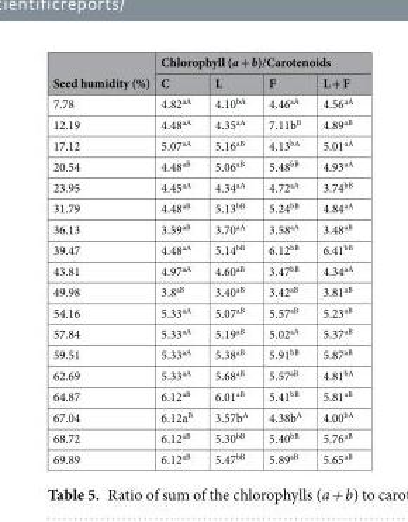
<table><thead><tr><td rowspan="2">Seed humidity (%)</td><td colspan="4">Chlorophyll (a + b)/Carotenoids</td></tr><tr><td>C</td><td>L</td><td>F</td><td>L + F</td></tr></thead><tbody><tr><td>7.78</td><td>4.82<sup>aA</sup></td><td>4.10<sup>bA</sup></td><td>4.46<sup>aA</sup></td><td>4.56<sup>aA</sup></td></tr><tr><td>12.19</td><td>4.48<sup>aA</sup></td><td>4.35<sup>aA</sup></td><td>7.11b<sup>B</sup></td><td>4.89<sup>aB</sup></td></tr><tr><td>17.12</td><td>5.07<sup>aA</sup></td><td>5.16<sup>aB</sup></td><td>4.13<sup>bA</sup></td><td>5.01<sup>aA</sup></td></tr><tr><td>20.54</td><td>4.48<sup>aB</sup></td><td>5.06<sup>aB</sup></td><td>5.48<sup>bB</sup></td><td>4.93<sup>aA</sup></td></tr><tr><td>23.95</td><td>4.45<sup>aA</sup></td><td>4.34<sup>aA</sup></td><td>4.72<sup>aA</sup></td><td>3.74<sup>bB</sup></td></tr><tr><td>31.79</td><td>4.48<sup>aB</sup></td><td>5.13<sup>bB</sup></td><td>5.24<sup>bB</sup></td><td>4.84<sup>aA</sup></td></tr><tr><td>36.13</td><td>3.59<sup>aB</sup></td><td>3.70<sup>aA</sup></td><td>3.58<sup>aA</sup></td><td>3.48<sup>aB</sup></td></tr><tr><td>39.47</td><td>4.48<sup>aA</sup></td><td>5.14<sup>bB</sup></td><td>6.12<sup>bB</sup></td><td>6.41<sup>bB</sup></td></tr><tr><td>43.81</td><td>4.97<sup>aA</sup></td><td>4.60<sup>aB</sup></td><td>3.47<sup>bB</sup></td><td>4.34<sup>aA</sup></td></tr><tr><td>49.98</td><td>3.8<sup>aB</sup></td><td>3.40<sup>aB</sup></td><td>3.42<sup>aB</sup></td><td>3.81<sup>aB</sup></td></tr><tr><td>54.16</td><td>5.33<sup>aA</sup></td><td>5.07<sup>aB</sup></td><td>5.57<sup>aB</sup></td><td>5.23<sup>aB</sup></td></tr><tr><td>57.84</td><td>5.33<sup>aA</sup></td><td>5.19<sup>aB</sup></td><td>5.02<sup>aA</sup></td><td>5.37<sup>aB</sup></td></tr><tr><td>59.51</td><td>5.33<sup>aA</sup></td><td>5.38<sup>aB</sup></td><td>5.91<sup>bB</sup></td><td>5.87<sup>aB</sup></td></tr><tr><td>62.69</td><td>5.33<sup>aA</sup></td><td>5.68<sup>aB</sup></td><td>5.57<sup>aB</sup></td><td>4.81<sup>bA</sup></td></tr><tr><td>64.87</td><td>6.12<sup>aB</sup></td><td>6.01<sup>aB</sup></td><td>5.41<sup>bB</sup></td><td>5.81<sup>aB</sup></td></tr><tr><td>67.04</td><td>6.12a<sup>B</sup></td><td>3.57b<sup>A</sup></td><td>4.38b<sup>A</sup></td><td>4.00<sup>bA</sup></td></tr><tr><td>68.72</td><td>6.12<sup>aB</sup></td><td>5.30<sup>bB</sup></td><td>5.40<sup>bB</sup></td><td>5.76<sup>aB</sup></td></tr><tr><td>69.89</td><td>6.12<sup>aB</sup></td><td>5.47<sup>bB</sup></td><td>5.89<sup>aB</sup></td><td>5.65<sup>aB</sup></td></tr></tbody></table>